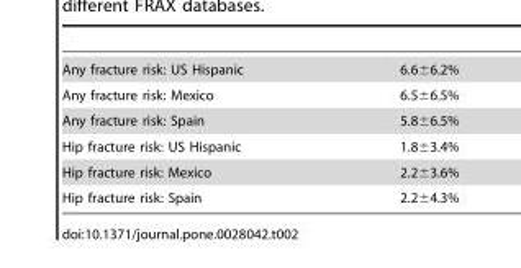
<table><tbody><tr><td>Any fracture risk: US Hispanic</td><td>6.6±6.2%</td></tr><tr><td>Any fracture risk: Mexico</td><td>6.5±6.5%</td></tr><tr><td>Any fracture risk: Spain</td><td>5.8±6.5%</td></tr><tr><td>Hip fracture risk: US Hispanic</td><td>1.8±3.4%</td></tr><tr><td>Hip fracture risk: Mexico</td><td>2.2±3.6%</td></tr><tr><td>Hip fracture risk: Spain</td><td>2.2±4.3%</td></tr></tbody></table>